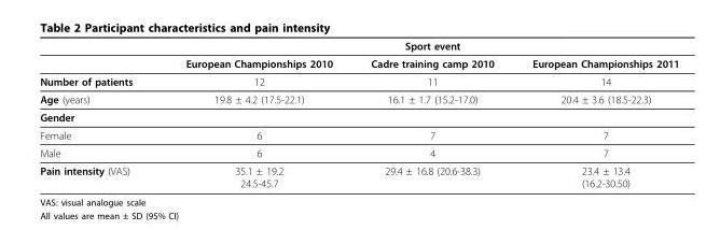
<table><thead><tr><td></td><td></td><td>Sport event</td><td></td></tr></thead><tbody><tr><td></td><td>European Championships 2010</td><td>Cadre training camp 2010</td><td>European Championships 2011</td></tr><tr><td>Number of patients</td><td>12</td><td>11</td><td>14</td></tr><tr><td>Age (years)</td><td>19.8 ± 4.2 (17.5-22.1)</td><td>16.1 ± 1.7 (15.2-17.0)</td><td>20.4 ± 3.6 (18.5-22.3)</td></tr><tr><td colspan="4">Gender</td></tr><tr><td>Female</td><td>6</td><td>7</td><td>7</td></tr><tr><td>Male</td><td>6</td><td>4</td><td>7</td></tr><tr><td>Pain intensity (VAS)</td><td>35.1 ± 19.2 24.5-45.7</td><td>29.4 ± 16.8 (20.6-38.3)</td><td>23.4 ± 13.4 (16.2-30.50)</td></tr></tbody></table>